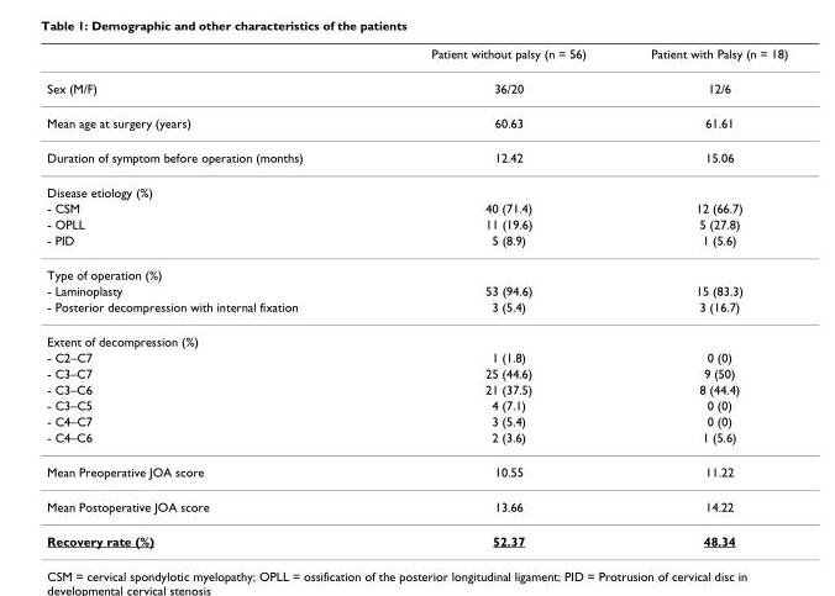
<table><thead><tr><td></td><td>Patient without palsy (n = 56)</td><td>Patient with Palsy (n = 18)</td></tr></thead><tbody><tr><td>Sex (M/F)</td><td>36/20</td><td>12/6</td></tr><tr><td>Mean age at surgery (years)</td><td>60.63</td><td>61.61</td></tr><tr><td>Duration of symptom before operation (months)</td><td>12.42</td><td>15.06</td></tr><tr><td colspan="3">Disease etiology (%)</td></tr><tr><td>- CSM</td><td>40 (71.4)</td><td>12 (66.7)</td></tr><tr><td>- OPLL</td><td>11 (19.6)</td><td>5 (27.8)</td></tr><tr><td>- PID</td><td>5 (8.9)</td><td>1 (5.6)</td></tr><tr><td colspan="3">Type of operation (%)</td></tr><tr><td>- Laminoplasty</td><td>53 (94.6)</td><td>15 (83.3)</td></tr><tr><td>- Posterior decompression with internal fixation</td><td>3 (5.4)</td><td>3 (16.7)</td></tr><tr><td colspan="3">Extent of decompression (%)</td></tr><tr><td>- C2–C7</td><td>1 (1.8)</td><td>0 (0)</td></tr><tr><td>- C3–C7</td><td>25 (44.6)</td><td>9 (50)</td></tr><tr><td>- C3–C6</td><td>21 (37.5)</td><td>8 (44.4)</td></tr><tr><td>- C3–C5</td><td>4 (7.1)</td><td>0 (0)</td></tr><tr><td>- C4–C7</td><td>3 (5.4)</td><td>0 (0)</td></tr><tr><td>- C4–C6</td><td>2 (3.6)</td><td>1 (5.6)</td></tr><tr><td>Mean Preoperative JOA score</td><td>10.55</td><td>11.22</td></tr><tr><td>Mean Postoperative JOA score</td><td>13.66</td><td>14.22</td></tr><tr><td>Recovery rate (%)</td><td>52.37</td><td>48.34</td></tr></tbody></table>